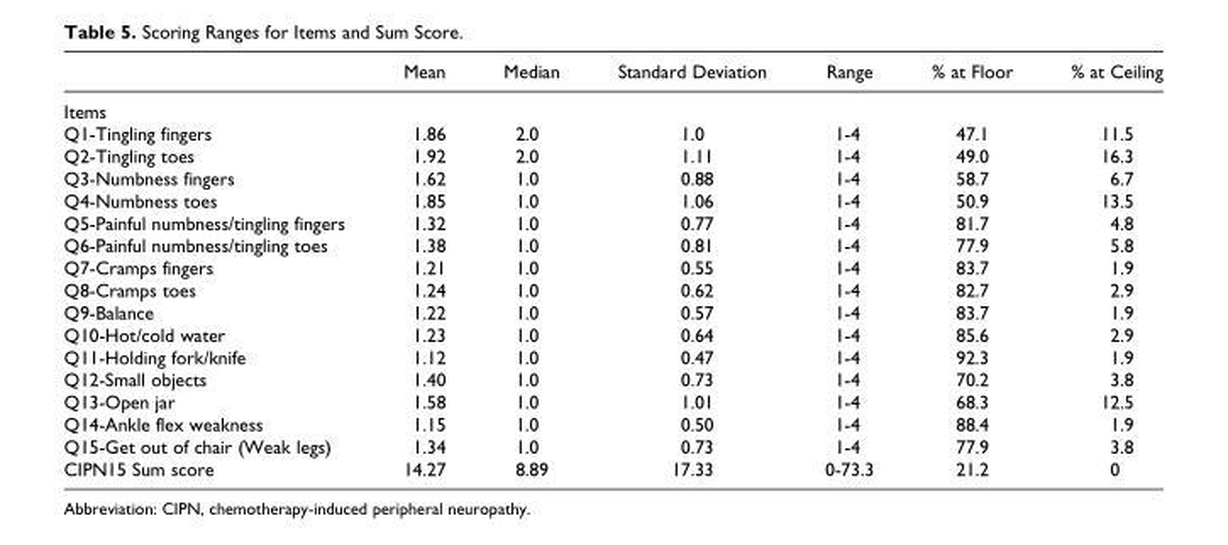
<table><thead><tr><td></td><td>Mean</td><td>Median</td><td>Standard Deviation</td><td>Range</td><td>% at Floor</td><td>% at Ceiling</td></tr></thead><tbody><tr><td colspan="7">Items</td></tr><tr><td>Q1-Tingling fingers</td><td>1.86</td><td>2.0</td><td>1.0</td><td>1-4</td><td>47.1</td><td>11.5</td></tr><tr><td>Q2-Tingling toes</td><td>1.92</td><td>2.0</td><td>1.11</td><td>1-4</td><td>49.0</td><td>16.3</td></tr><tr><td>Q3-Numbness fingers</td><td>1.62</td><td>1.0</td><td>0.88</td><td>1-4</td><td>58.7</td><td>6.7</td></tr><tr><td>Q4-Numbness toes</td><td>1.85</td><td>1.0</td><td>1.06</td><td>1-4</td><td>50.9</td><td>13.5</td></tr><tr><td>Q5-Painful numbness/tingling fingers</td><td>1.32</td><td>1.0</td><td>0.77</td><td>1-4</td><td>81.7</td><td>4.8</td></tr><tr><td>Q6-Painful numbness/tingling toes</td><td>1.38</td><td>1.0</td><td>0.81</td><td>1-4</td><td>77.9</td><td>5.8</td></tr><tr><td>Q7-Cramps fingers</td><td>1.21</td><td>1.0</td><td>0.55</td><td>1-4</td><td>83.7</td><td>1.9</td></tr><tr><td>Q8-Cramps toes</td><td>1.24</td><td>1.0</td><td>0.62</td><td>1-4</td><td>82.7</td><td>2.9</td></tr><tr><td>Q9-Balance</td><td>1.22</td><td>1.0</td><td>0.57</td><td>1-4</td><td>83.7</td><td>1.9</td></tr><tr><td>Q10-Hot/cold water</td><td>1.23</td><td>1.0</td><td>0.64</td><td>1-4</td><td>85.6</td><td>2.9</td></tr><tr><td>Q11-Holding fork/knife</td><td>1.12</td><td>1.0</td><td>0.47</td><td>1-4</td><td>92.3</td><td>1.9</td></tr><tr><td>Q12-Small objects</td><td>1.40</td><td>1.0</td><td>0.73</td><td>1-4</td><td>70.2</td><td>3.8</td></tr><tr><td>Q13-Open jar</td><td>1.58</td><td>1.0</td><td>1.01</td><td>1-4</td><td>68.3</td><td>12.5</td></tr><tr><td>Q14-Ankle flex weakness</td><td>1.15</td><td>1.0</td><td>0.50</td><td>1-4</td><td>88.4</td><td>1.9</td></tr><tr><td>Q15-Get out of chair (Weak legs)</td><td>1.34</td><td>1.0</td><td>0.73</td><td>1-4</td><td>77.9</td><td>3.8</td></tr><tr><td>CIPN15 Sum score</td><td>14.27</td><td>8.89</td><td>17.33</td><td>0-73.3</td><td>21.2</td><td>0</td></tr></tbody></table>